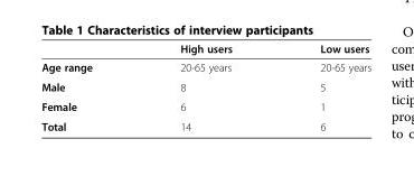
<table><thead><tr><td></td><td>High users</td><td>Low users</td></tr></thead><tbody><tr><td>Age range</td><td>20-65 years</td><td>20-65 years</td></tr><tr><td>Male</td><td>8</td><td>5</td></tr><tr><td>Female</td><td>6</td><td>1</td></tr><tr><td>Total</td><td>14</td><td>6</td></tr></tbody></table>